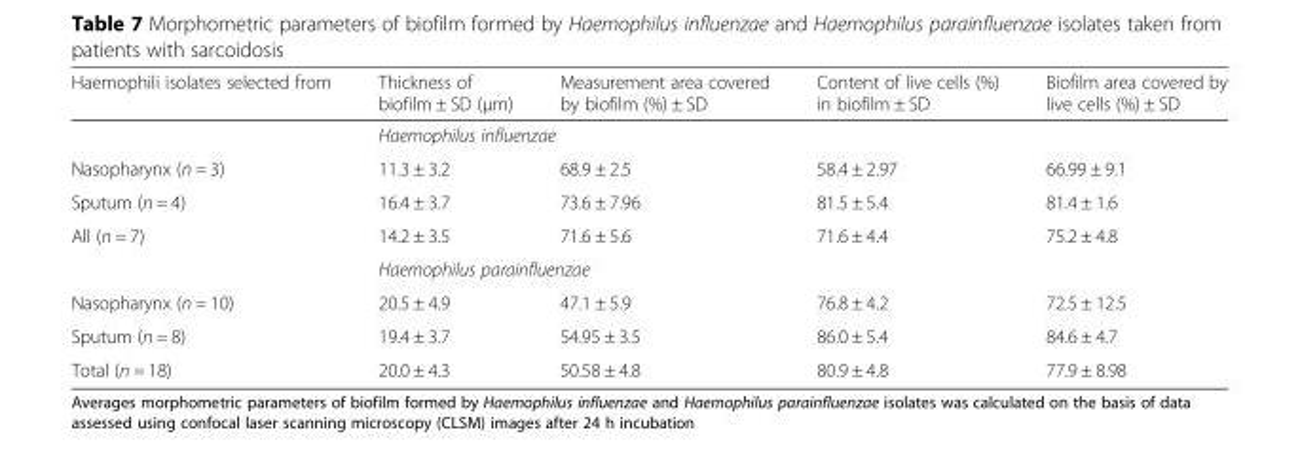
<table><thead><tr><td>Haemophili isolates selected from</td><td>Thickness of biofilm ± SD (μm)</td><td>Measurement area covered by biofilm (%) ± SD</td><td>Content of live cells (%) in biofilm ± SD</td><td>Biofilm area covered by live cells (%) ± SD</td></tr></thead><tbody><tr><td></td><td colspan="4">Haemophilus influenzae</td></tr><tr><td>Nasopharynx (n = 3)</td><td>11.3 ± 3.2</td><td>68.9 ± 2.5</td><td>58.4 ± 2.97</td><td>66.99 ± 9.1</td></tr><tr><td>Sputum (n = 4)</td><td>16.4 ± 3.7</td><td>73.6 ± 7.96</td><td>81.5 ± 5.4</td><td>81.4 ± 1.6</td></tr><tr><td rowspan="2">All (n = 7)</td><td>14.2 ± 3.5</td><td>71.6 ± 5.6</td><td>71.6 ± 4.4</td><td>75.2 ± 4.8</td></tr><tr><td colspan="4">Haemophilus parainfluenzae</td></tr><tr><td>Nasopharynx (n = 10)</td><td>20.5 ± 4.9</td><td>47.1 ± 5.9</td><td>76.8 ± 4.2</td><td>72.5 ± 12.5</td></tr><tr><td>Sputum (n = 8)</td><td>19.4 ± 3.7</td><td>54.95 ± 3.5</td><td>86.0 ± 5.4</td><td>84.6 ± 4.7</td></tr><tr><td>Total (n = 18)</td><td>20.0 ± 4.3</td><td>50.58 ± 4.8</td><td>80.9 ± 4.8</td><td>77.9 ± 8.98</td></tr></tbody></table>